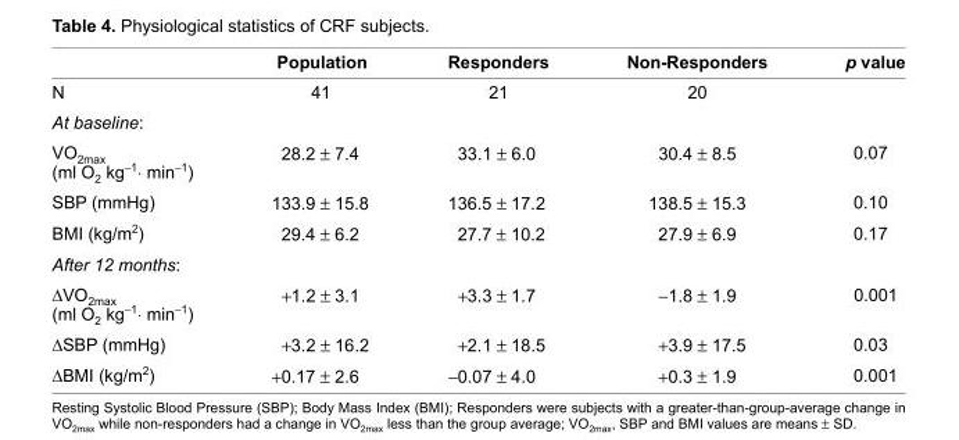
<table><thead><tr><td></td><td>Population</td><td>Responders</td><td>Non-Responders</td><td>p value</td></tr></thead><tbody><tr><td>N</td><td>41</td><td>21</td><td>20</td><td></td></tr><tr><td colspan="5">At baseline:</td></tr><tr><td>VO2max (ml O2 kg−1⋅ min−1)</td><td>28.2 ± 7.4</td><td>33.1 ± 6.0</td><td>30.4 ± 8.5</td><td>0.07</td></tr><tr><td>SBP (mmHg)</td><td>133.9 ± 15.8</td><td>136.5 ± 17.2</td><td>138.5 ± 15.3</td><td>0.10</td></tr><tr><td>BMI (kg/m<sup>2</sup>)</td><td>29.4 ± 6.2</td><td>27.7 ± 10.2</td><td>27.9 ± 6.9</td><td>0.17</td></tr><tr><td colspan="5">After 12 months:</td></tr><tr><td>∆VO2max (ml O2 kg−1⋅ min−1)</td><td>+1.2 ± 3.1</td><td>+3.3 ± 1.7</td><td>−1.8 ± 1.9</td><td>0.001</td></tr><tr><td>∆SBP (mmHg)</td><td>+3.2 ± 16.2</td><td>+2.1 ± 18.5</td><td>+3.9 ± 17.5</td><td>0.03</td></tr><tr><td>∆BMI (kg/m2)</td><td>+0.17 ± 2.6</td><td>−0.07 ± 4.0</td><td>+0.3 ± 1.9</td><td>0.001</td></tr></tbody></table>